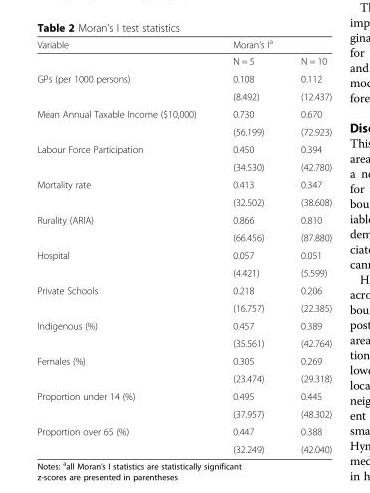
<table><thead><tr><td rowspan="2">Variable</td><td colspan="2">Moran’s I<sup>a</sup></td></tr><tr><td>N = 5</td><td>N = 10</td></tr></thead><tbody><tr><td rowspan="2">GPs (per 1000 persons)</td><td>0.108</td><td>0.112</td></tr><tr><td>(8.492)</td><td>(12.437)</td></tr><tr><td rowspan="2">Mean Annual Taxable Income ($10,000)</td><td>0.730</td><td>0.670</td></tr><tr><td>(56.199)</td><td>(72.923)</td></tr><tr><td rowspan="2">Labour Force Participation</td><td>0.450</td><td>0.394</td></tr><tr><td>(34.530)</td><td>(42.780)</td></tr><tr><td rowspan="2">Mortality rate</td><td>0.413</td><td>0.347</td></tr><tr><td>(32.502)</td><td>(38.608)</td></tr><tr><td rowspan="2">Rurality (ARIA)</td><td>0.866</td><td>0.810</td></tr><tr><td>(66.456)</td><td>(87.880)</td></tr><tr><td rowspan="2">Hospital</td><td>0.057</td><td>0.051</td></tr><tr><td>(4.421)</td><td>(5.599)</td></tr><tr><td rowspan="2">Private Schools</td><td>0.218</td><td>0.206</td></tr><tr><td>(16.757)</td><td>(22.385)</td></tr><tr><td rowspan="2">Indigenous (%)</td><td>0.457</td><td>0.389</td></tr><tr><td>(35.561)</td><td>(42.764)</td></tr><tr><td rowspan="2">Females (%)</td><td>0.305</td><td>0.269</td></tr><tr><td>(23.474)</td><td>(29.318)</td></tr><tr><td rowspan="2">Proportion under 14 (%)</td><td>0.495</td><td>0.445</td></tr><tr><td>(37.957)</td><td>(48.302)</td></tr><tr><td rowspan="2">Proportion over 65 (%)</td><td>0.447</td><td>0.388</td></tr><tr><td>(32.249)</td><td>(42.040)</td></tr></tbody></table>